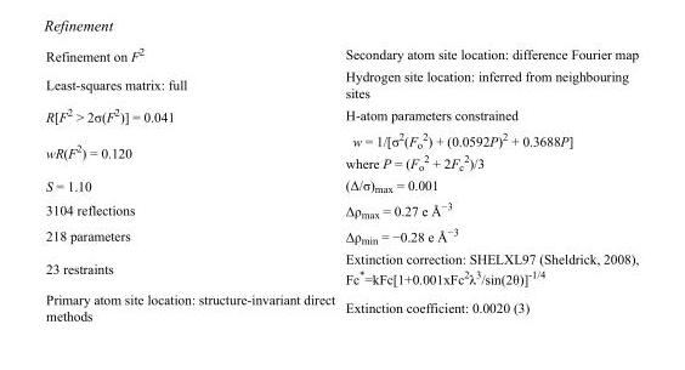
<table><tbody><tr><td>Refinement on F<sup>2</sup></td><td>Secondary atom site location: difference Fourier map</td></tr><tr><td>Least-squares matrix: full</td><td>Hydrogen site location: inferred from neighbouring sites</td></tr><tr><td>R[F<sup>2</sup> &gt; 2σ(F<sup>2</sup>)] = 0.041</td><td>H-atom parameters constrained</td></tr><tr><td>wR(F<sup>2</sup>) = 0.120</td><td>w = 1/[σ<sup>2</sup>(F<sub>o</sub> <sup>2</sup>) + (0.0592P)<sup>2</sup> + 0.3688P] where P = (F<sub>o</sub> <sup>2</sup> + 2F<sub>c</sub> <sup>2</sup>)/3</td></tr><tr><td>S = 1.10</td><td>(Δ/σ)<sub>max</sub> = 0.001</td></tr><tr><td>3104 reflections</td><td>Δρ<sub>max</sub> = 0.27 e Å<sup>−3</sup></td></tr><tr><td>218 parameters</td><td>Δρ<sub>min</sub> = −0.28 e Å<sup>−3</sup></td></tr><tr><td>23 restraints</td><td>Extinction correction: SHELXL97 (Sheldrick, 2008), Fc*=kFc[1+0.001xFc<sup>2</sup>λ<sup>3</sup>/sin(2θ)]<sup>-1/4</sup></td></tr><tr><td>Primary atom site location: structure-invariant direct methods</td><td>Extinction coefficient: 0.0020 (3)</td></tr></tbody></table>